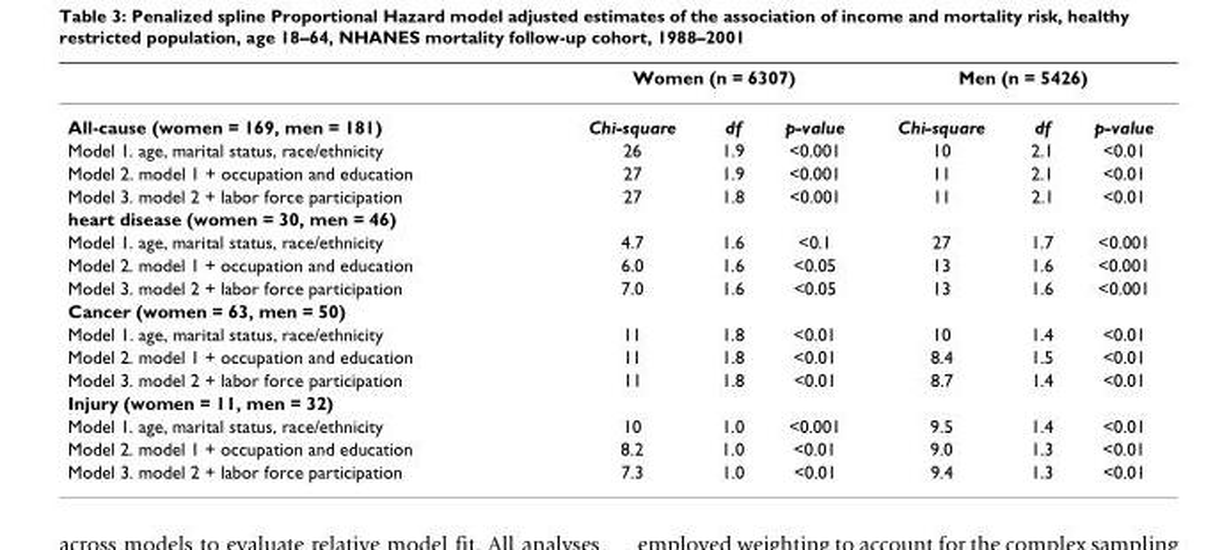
<table><thead><tr><td rowspan="2">All-cause (women = 169, men = 181)</td><td colspan="3">Women (n = 6307)</td><td colspan="3">Men (n = 5426)</td></tr><tr><td>Chi-square</td><td>df</td><td>p-value</td><td>Chi-square</td><td>df</td><td>p-value</td></tr></thead><tbody><tr><td>Model 1. age, marital status, race/ethnicity</td><td>26</td><td>1.9</td><td>&lt;0.001</td><td>10</td><td>2.1</td><td>&lt;0.01</td></tr><tr><td>Model 2. model 1 + occupation and education</td><td>27</td><td>1.9</td><td>&lt;0.001</td><td>11</td><td>2.1</td><td>&lt;0.01</td></tr><tr><td>Model 3. model 2 + labor force participation</td><td>27</td><td>1.8</td><td>&lt;0.001</td><td>11</td><td>2.1</td><td>&lt;0.01</td></tr><tr><td colspan="7">heart disease (women = 30, men = 46)</td></tr><tr><td>Model 1. age, marital status, race/ethnicity</td><td>4.7</td><td>1.6</td><td>&lt;0.1</td><td>27</td><td>1.7</td><td>&lt;0.001</td></tr><tr><td>Model 2. model 1 + occupation and education</td><td>6.0</td><td>1.6</td><td>&lt;0.05</td><td>13</td><td>1.6</td><td>&lt;0.001</td></tr><tr><td>Model 3. model 2 + labor force participation</td><td>7.0</td><td>1.6</td><td>&lt;0.05</td><td>13</td><td>1.6</td><td>&lt;0.001</td></tr><tr><td colspan="7">Cancer (women = 63, men = 50)</td></tr><tr><td>Model 1. age, marital status, race/ethnicity</td><td>11</td><td>1.8</td><td>&lt;0.01</td><td>10</td><td>1.4</td><td>&lt;0.01</td></tr><tr><td>Model 2. model 1 + occupation and education</td><td>11</td><td>1.8</td><td>&lt;0.01</td><td>8.4</td><td>1.5</td><td>&lt;0.01</td></tr><tr><td>Model 3. model 2 + labor force participation</td><td>11</td><td>1.8</td><td>&lt;0.01</td><td>8.7</td><td>1.4</td><td>&lt;0.01</td></tr><tr><td colspan="7">Injury (women = 11, men = 32)</td></tr><tr><td>Model 1. age, marital status, race/ethnicity</td><td>10</td><td>1.0</td><td>&lt;0.001</td><td>9.5</td><td>1.4</td><td>&lt;0.01</td></tr><tr><td>Model 2. model 1 + occupation and education</td><td>8.2</td><td>1.0</td><td>&lt;0.01</td><td>9.0</td><td>1.3</td><td>&lt;0.01</td></tr><tr><td>Model 3. model 2 + labor force participation</td><td>7.3</td><td>1.0</td><td>&lt;0.01</td><td>9.4</td><td>1.3</td><td>&lt;0.01</td></tr></tbody></table>